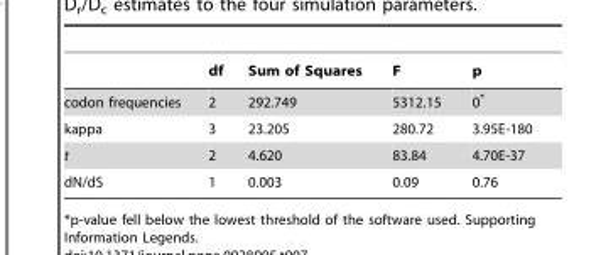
<table><thead><tr><td></td><td>df</td><td>Sum of Squares</td><td>F</td><td>p</td></tr></thead><tbody><tr><td>codon frequencies</td><td>2</td><td>292.749</td><td>5312.15</td><td>0*</td></tr><tr><td>kappa</td><td>3</td><td>23.205</td><td>280.72</td><td>3.95E-180</td></tr><tr><td>t</td><td>2</td><td>4.620</td><td>83.84</td><td>4.70E-37</td></tr><tr><td>dN/dS</td><td>1</td><td>0.003</td><td>0.09</td><td>0.76</td></tr></tbody></table>